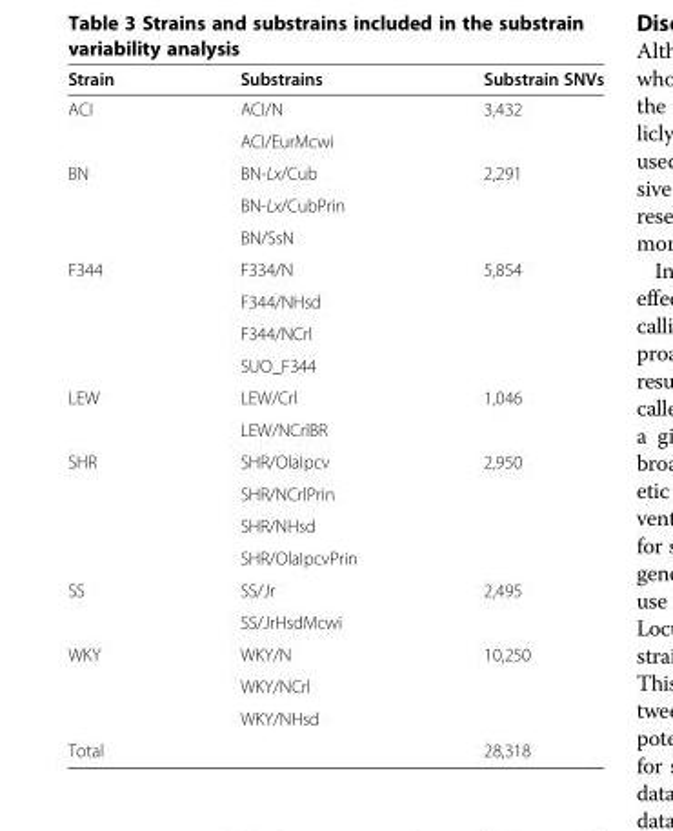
<table><thead><tr><td>Strain</td><td>Substrains</td><td>Substrain SNVs</td></tr></thead><tbody><tr><td rowspan="2">ACI</td><td>ACI/N</td><td>3,432</td></tr><tr><td>ACI/EurMcwi</td><td></td></tr><tr><td rowspan="3">BN</td><td>BN-Lx/Cub</td><td>2,291</td></tr><tr><td>BN-Lx/CubPrin</td><td></td></tr><tr><td>BN/SsN</td><td></td></tr><tr><td rowspan="4">F344</td><td>F334/N</td><td>5,854</td></tr><tr><td>F344/NHsd</td><td></td></tr><tr><td>F344/NCrl</td><td></td></tr><tr><td>SUO_F344</td><td></td></tr><tr><td rowspan="2">LEW</td><td>LEW/Crl</td><td>1,046</td></tr><tr><td>LEW/NCrlBR</td><td></td></tr><tr><td rowspan="4">SHR</td><td>SHR/OlaIpcv</td><td>2,950</td></tr><tr><td>SHR/NCrlPrin</td><td></td></tr><tr><td>SHR/NHsd</td><td></td></tr><tr><td>SHR/OlaIpcvPrin</td><td></td></tr><tr><td rowspan="2">SS</td><td>SS/Jr</td><td>2,495</td></tr><tr><td>SS/JrHsdMcwi</td><td></td></tr><tr><td rowspan="3">WKY</td><td>WKY/N</td><td>10,250</td></tr><tr><td>WKY/NCrl</td><td></td></tr><tr><td>WKY/NHsd</td><td></td></tr><tr><td>Total</td><td></td><td>28,318</td></tr></tbody></table>